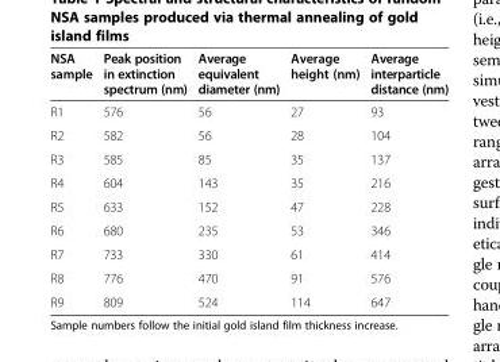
<table><thead><tr><td>NSA sample</td><td>Peak position in extinction spectrum (nm)</td><td>Average equivalent diameter (nm)</td><td>Average height (nm)</td><td>Average interparticle distance (nm)</td></tr></thead><tbody><tr><td>R1</td><td>576</td><td>56</td><td>27</td><td>93</td></tr><tr><td>R2</td><td>582</td><td>56</td><td>28</td><td>104</td></tr><tr><td>R3</td><td>585</td><td>85</td><td>35</td><td>137</td></tr><tr><td>R4</td><td>604</td><td>143</td><td>35</td><td>216</td></tr><tr><td>R5</td><td>633</td><td>152</td><td>47</td><td>228</td></tr><tr><td>R6</td><td>680</td><td>235</td><td>53</td><td>346</td></tr><tr><td>R7</td><td>733</td><td>330</td><td>61</td><td>414</td></tr><tr><td>R8</td><td>776</td><td>470</td><td>91</td><td>576</td></tr><tr><td>R9</td><td>809</td><td>524</td><td>114</td><td>647</td></tr></tbody></table>